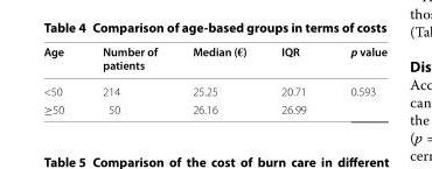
<table><thead><tr><td>Age</td><td>Number of patients</td><td>Median (€)</td><td>IQR</td><td>p value</td></tr></thead><tbody><tr><td>&lt;50</td><td>214</td><td>25.25</td><td>20.71</td><td rowspan="2">0.593</td></tr><tr><td>≥50</td><td>50</td><td>26.16</td><td>26.99</td></tr></tbody></table>